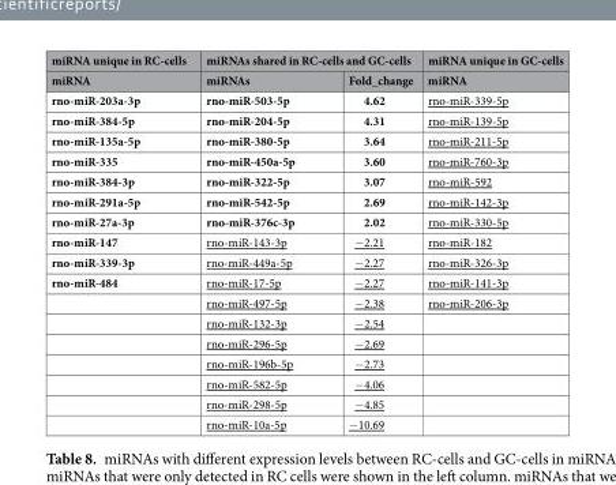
<table><thead><tr><td rowspan="2">miRNA unique in RC-cells miRNA</td><td colspan="2">miRNAs shared in RC-cells and GC-cells</td><td rowspan="2">miRNA unique in GC-cells miRNA</td></tr><tr><td>miRNAs</td><td>Fold_change</td></tr></thead><tbody><tr><td>rno-miR-203a-3p</td><td>rno-miR-503-5p</td><td>4.62</td><td>rno-miR-339-5p</td></tr><tr><td>rno-miR-384-5p</td><td>rno-miR-204-5p</td><td>4.31</td><td>rno-miR-139-5p</td></tr><tr><td>rno-miR-135a-5p</td><td>rno-miR-380-5p</td><td>3.64</td><td>rno-miR-211-5p</td></tr><tr><td>rno-miR-335</td><td>rno-miR-450a-5p</td><td>3.60</td><td>rno-miR-760-3p</td></tr><tr><td>rno-miR-384-3p</td><td>rno-miR-322-5p</td><td>3.07</td><td>rno-miR-592</td></tr><tr><td>rno-miR-291a-5p</td><td>rno-miR-542-5p</td><td>2.69</td><td>rno-miR-142-3p</td></tr><tr><td>rno-miR-27a-3p</td><td>rno-miR-376c-3p</td><td>2.02</td><td>rno-miR-330-5p</td></tr><tr><td>rno-miR-147</td><td>rno-miR-143-3p</td><td>−2.21</td><td>rno-miR-182</td></tr><tr><td>rno-miR-339-3p</td><td>rno-miR-449a-5p</td><td>−2.27</td><td>rno-miR-326-3p</td></tr><tr><td rowspan="8">rno-miR-484</td><td>rno-miR-17-5p</td><td>−2.27</td><td>rno-miR-141-3p</td></tr><tr><td>rno-miR-497-5p</td><td>−2.38</td><td>rno-miR-206-3p</td></tr><tr><td>rno-miR-132-3p</td><td>−2.54</td><td></td></tr><tr><td>rno-miR-296-5p</td><td>−2.69</td><td></td></tr><tr><td>rno-miR-196b-5p</td><td>−2.73</td><td></td></tr><tr><td>rno-miR-582-5p</td><td>−4.06</td><td></td></tr><tr><td>rno-miR-298-5p</td><td>−4.85</td><td></td></tr><tr><td>rno-miR-10a-5p</td><td>−10.69</td><td></td></tr></tbody></table>